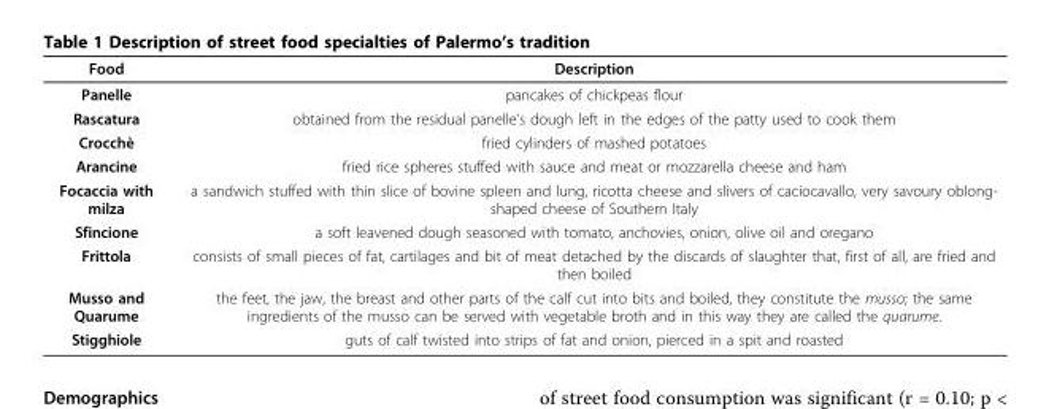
<table><thead><tr><td>Food</td><td>Description</td></tr></thead><tbody><tr><td>Panelle</td><td>pancakes of chickpeas flour</td></tr><tr><td>Rascatura</td><td>obtained from the residual panelle’s dough left in the edges of the patty used to cook them</td></tr><tr><td>Crocchè</td><td>fried cylinders of mashed potatoes</td></tr><tr><td>Arancine</td><td>fried rice spheres stuffed with sauce and meat or mozzarella cheese and ham</td></tr><tr><td>Focaccia with milza</td><td>a sandwich stuffed with thin slice of bovine spleen and lung, ricotta cheese and slivers of caciocavallo, very savoury oblong- shaped cheese of Southern Italy</td></tr><tr><td>Sfincione</td><td>a soft leavened dough seasoned with tomato, anchovies, onion, olive oil and oregano</td></tr><tr><td>Frittola</td><td>consists of small pieces of fat, cartilages and bit of meat detached by the discards of slaughter that, first of all, are fried and then boiled</td></tr><tr><td>Musso and Quarume</td><td>the feet, the jaw, the breast and other parts of the calf cut into bits and boiled, they constitute the musso; the same ingredients of the musso can be served with vegetable broth and in this way they are called the quarume.</td></tr><tr><td>Stigghiole</td><td>guts of calf twisted into strips of fat and onion, pierced in a spit and roasted</td></tr></tbody></table>